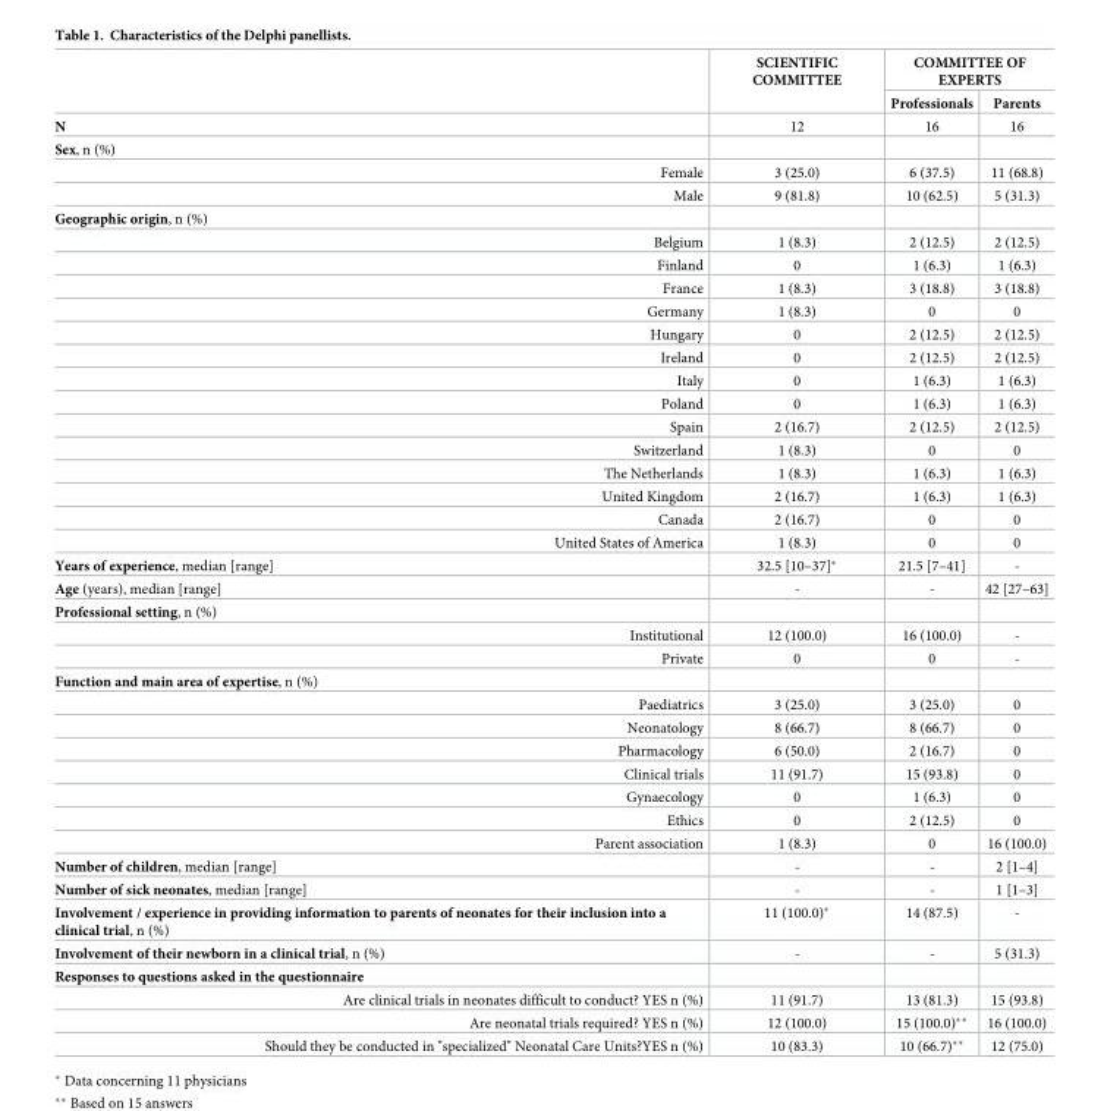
<table><thead><tr><td rowspan="2"></td><td rowspan="2">SCIENTIFIC COMMITTEE</td><td colspan="2">COMMITTEE OF EXPERTS</td></tr><tr><td>Professionals</td><td>Parents</td></tr></thead><tbody><tr><td>N</td><td>12</td><td>16</td><td>16</td></tr><tr><td colspan="4">Sex, n (%)</td></tr><tr><td>Female</td><td>3 (25.0)</td><td>6 (37.5)</td><td>11 (68.8)</td></tr><tr><td>Male</td><td>9 (81.8)</td><td>10 (62.5)</td><td>5 (31.3)</td></tr><tr><td colspan="4">Geographic origin, n (%)</td></tr><tr><td>Belgium</td><td>1 (8.3)</td><td>2 (12.5)</td><td>2 (12.5)</td></tr><tr><td>Finland</td><td>0</td><td>1 (6.3)</td><td>1 (6.3)</td></tr><tr><td>France</td><td>1 (8.3)</td><td>3 (18.8)</td><td>3 (18.8)</td></tr><tr><td>Germany</td><td>1 (8.3)</td><td>0</td><td>0</td></tr><tr><td>Hungary</td><td>0</td><td>2 (12.5)</td><td>2 (12.5)</td></tr><tr><td>Ireland</td><td>0</td><td>2 (12.5)</td><td>2 (12.5)</td></tr><tr><td>Italy</td><td>0</td><td>1 (6.3)</td><td>1 (6.3)</td></tr><tr><td>Poland</td><td>0</td><td>1 (6.3)</td><td>1 (6.3)</td></tr><tr><td>Spain</td><td>2 (16.7)</td><td>2 (12.5)</td><td>2 (12.5)</td></tr><tr><td>Switzerland</td><td>1 (8.3)</td><td>0</td><td>0</td></tr><tr><td>The Netherlands</td><td>1 (8.3)</td><td>1 (6.3)</td><td>1 (6.3)</td></tr><tr><td>United Kingdom</td><td>2 (16.7)</td><td>1 (6.3)</td><td>1 (6.3)</td></tr><tr><td>Canada</td><td>2 (16.7)</td><td>0</td><td>0</td></tr><tr><td>United States of America</td><td>1 (8.3)</td><td>0</td><td>0</td></tr><tr><td>Years of experience, median [range]</td><td>32.5 [10–37]*</td><td>21.5 [7–41]</td><td>-</td></tr><tr><td>Age (years), median [range]</td><td>-</td><td>-</td><td>42 [27–63]</td></tr><tr><td colspan="4">Professional setting, n (%)</td></tr><tr><td>Institutional</td><td>12 (100.0)</td><td>16 (100.0)</td><td>-</td></tr><tr><td>Private</td><td>0</td><td>0</td><td>-</td></tr><tr><td colspan="4">Function and main area of expertise, n (%)</td></tr><tr><td>Paediatrics</td><td>3 (25.0)</td><td>3 (25.0)</td><td>0</td></tr><tr><td>Neonatology</td><td>8 (66.7)</td><td>8 (66.7)</td><td>0</td></tr><tr><td>Pharmacology</td><td>6 (50.0)</td><td>2 (16.7)</td><td>0</td></tr><tr><td>Clinical trials</td><td>11 (91.7)</td><td>15 (93.8)</td><td>0</td></tr><tr><td>Gynaecology</td><td>0</td><td>1 (6.3)</td><td>0</td></tr><tr><td>Ethics</td><td>0</td><td>2 (12.5)</td><td>0</td></tr><tr><td>Parent association</td><td>1 (8.3)</td><td>0</td><td>16 (100.0)</td></tr><tr><td>Number of children, median [range]</td><td>-</td><td>-</td><td>2 [1–4]</td></tr><tr><td>Number of sick neonates, median [range]</td><td>-</td><td>-</td><td>1 [1–3]</td></tr><tr><td>Involvement / experience in providing information to parents of neonates for their inclusion into a clinical trial, n (%)</td><td>11 (100.0)*</td><td>14 (87.5)</td><td>-</td></tr><tr><td>Involvement of their newborn in a clinical trial, n (%)</td><td>-</td><td>-</td><td>5 (31.3)</td></tr><tr><td colspan="4">Responses to questions asked in the questionnaire</td></tr><tr><td>Are clinical trials in neonates difficult to conduct? YES n (%)</td><td>11 (91.7)</td><td>13 (81.3)</td><td>15 (93.8)</td></tr><tr><td>Are neonatal trials required? YES n (%)</td><td>12 (100.0)</td><td>15 (100.0)**</td><td>16 (100.0)</td></tr><tr><td>Should they be conducted in &quot;specialized&quot; Neonatal Care Units?YES n (%)</td><td>10 (83.3)</td><td>10 (66.7)**</td><td>12 (75.0)</td></tr></tbody></table>